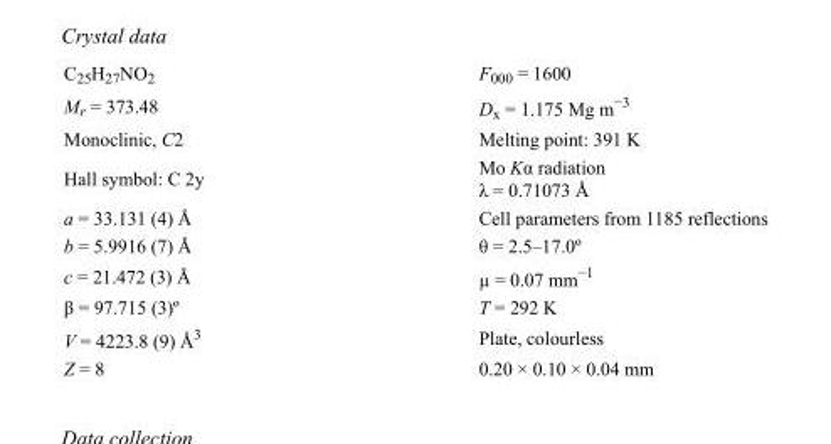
<table><tbody><tr><td>C<sub>25</sub>H<sub>27</sub>NO<sub>2</sub></td><td>F000 = 1600</td></tr><tr><td>M<sub>r</sub> = 373.48</td><td>D<sub>x</sub> = 1.175 Mg m<sup>−3</sup></td></tr><tr><td>Monoclinic, C2</td><td>Melting point: 391 K</td></tr><tr><td>Hall symbol: C 2y</td><td>Mo Kα radiation λ = 0.71073 Å</td></tr><tr><td>a = 33.131 (4) Å</td><td>Cell parameters from 1185 reflections</td></tr><tr><td>b = 5.9916 (7) Å</td><td>θ = 2.5–17.0º</td></tr><tr><td>c = 21.472 (3) Å</td><td>µ = 0.07 mm<sup>−1</sup></td></tr><tr><td>β = 97.715 (3)º</td><td>T = 292 K</td></tr><tr><td>V = 4223.8 (9) Å<sup>3</sup></td><td>Plate, colourless</td></tr><tr><td>Z = 8</td><td>0.20 × 0.10 × 0.04 mm</td></tr></tbody></table>